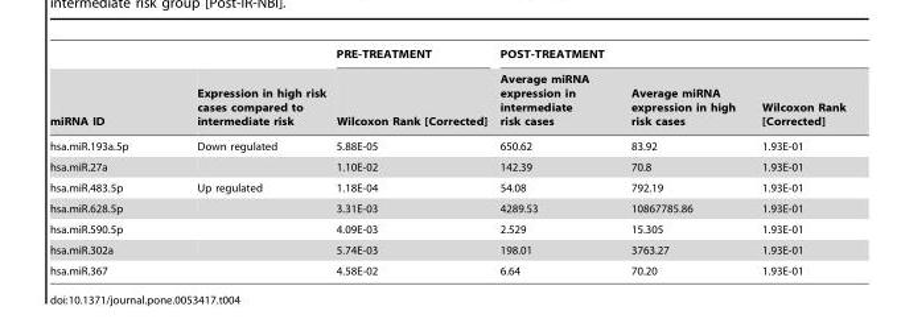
<table><thead><tr><td rowspan="2">miRNA ID</td><td rowspan="2">Expression in high risk cases compared to intermediate risk</td><td rowspan="2">PRE-TREATMENT Wilcoxon Rank [Corrected]</td><td colspan="3">POST-TREATMENT</td></tr><tr><td>Average miRNA expression in intermediate risk cases</td><td>Average miRNA expression in high risk cases</td><td>Wilcoxon Rank [Corrected]</td></tr></thead><tbody><tr><td>hsa.miR.193a.5p</td><td>Down regulated</td><td>5.88E-05</td><td>650.62</td><td>83.92</td><td>1.93E-01</td></tr><tr><td>hsa.miR.27a</td><td></td><td>1.10E-02</td><td>142.39</td><td>70.8</td><td>1.93E-01</td></tr><tr><td>hsa.miR.483.5p</td><td>Up regulated</td><td>1.18E-04</td><td>54.08</td><td>792.19</td><td>1.93E-01</td></tr><tr><td>hsa.miR.628.5p</td><td></td><td>3.31E-03</td><td>4289.53</td><td>10867785.86</td><td>1.93E-01</td></tr><tr><td>hsa.miR.590.5p</td><td></td><td>4.09E-03</td><td>2.529</td><td>15.305</td><td>1.93E-01</td></tr><tr><td>hsa.miR.302a</td><td></td><td>5.74E-03</td><td>198.01</td><td>3763.27</td><td>1.93E-01</td></tr><tr><td>hsa.miR.367</td><td></td><td>4.58E-02</td><td>6.64</td><td>70.20</td><td>1.93E-01</td></tr></tbody></table>